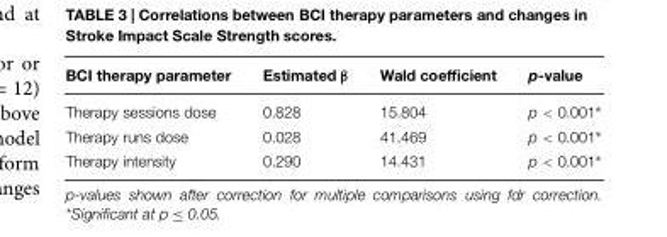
<table><thead><tr><td>BCI therapy parameter</td><td>Estimated β</td><td>Wald coefficient</td><td>p-value</td></tr></thead><tbody><tr><td>Therapy sessions dose</td><td>0.828</td><td>15.804</td><td>p &lt; 0.001∗</td></tr><tr><td>Therapy runs dose</td><td>0.028</td><td>41.469</td><td>p &lt; 0.001∗</td></tr><tr><td>Therapy intensity</td><td>0.290</td><td>14.431</td><td>p &lt; 0.001∗</td></tr></tbody></table>